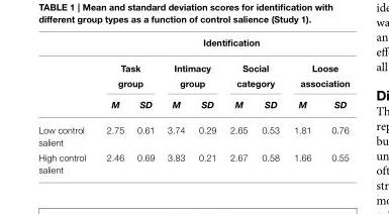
<table><thead><tr><td rowspan="3"></td><td colspan="8">Identification</td></tr><tr><td colspan="2">Task group</td><td colspan="2">Intimacy group</td><td colspan="2">Social category</td><td colspan="2">Loose association</td></tr><tr><td>M</td><td>SD</td><td>M</td><td>SD</td><td>M</td><td>SD</td><td>M</td><td>SD</td></tr></thead><tbody><tr><td>Low control salient</td><td>2.75</td><td>0.61</td><td>3.74</td><td>0.29</td><td>2.65</td><td>0.53</td><td>1.81</td><td>0.76</td></tr><tr><td>High control salient</td><td>2.46</td><td>0.69</td><td>3.83</td><td>0.21</td><td>2.67</td><td>0.58</td><td>1.66</td><td>0.55</td></tr></tbody></table>